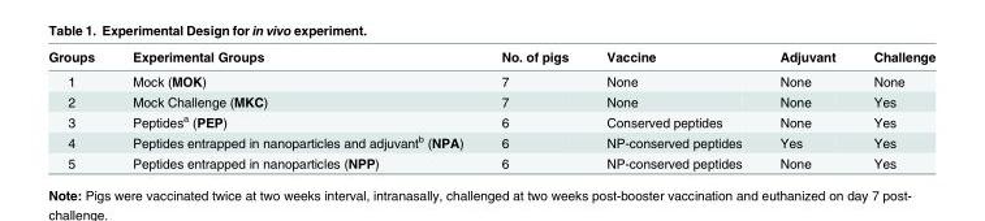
<table><thead><tr><td>Groups</td><td>Experimental Groups</td><td>No. of pigs</td><td>Vaccine</td><td>Adjuvant</td><td>Challenge</td></tr></thead><tbody><tr><td>1</td><td>Mock (MOK)</td><td>7</td><td>None</td><td>None</td><td>None</td></tr><tr><td>2</td><td>Mock Challenge (MKC)</td><td>7</td><td>None</td><td>None</td><td>Yes</td></tr><tr><td>3</td><td>Peptidesa (PEP)</td><td>6</td><td>Conserved peptides</td><td>None</td><td>Yes</td></tr><tr><td>4</td><td>Peptides entrapped in nanoparticles and adjuvantb (NPA)</td><td>6</td><td>NP-conserved peptides</td><td>Yes</td><td>Yes</td></tr><tr><td>5</td><td>Peptides entrapped in nanoparticles (NPP)</td><td>6</td><td>NP-conserved peptides</td><td>None</td><td>Yes</td></tr></tbody></table>